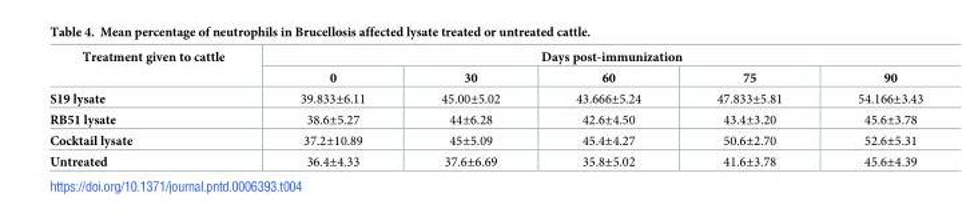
<table><thead><tr><td rowspan="2">Treatment given to cattle</td><td colspan="5">Days post-immunization</td></tr><tr><td>0</td><td>30</td><td>60</td><td>75</td><td>90</td></tr></thead><tbody><tr><td>S19 lysate</td><td>39.833±6.11</td><td>45.00±5.02</td><td>43.666±5.24</td><td>47.833±5.81</td><td>54.166±3.43</td></tr><tr><td>RB51 lysate</td><td>38.6±5.27</td><td>44±6.28</td><td>42.6±4.50</td><td>43.4±3.20</td><td>45.6±3.78</td></tr><tr><td>Cocktail lysate</td><td>37.2±10.89</td><td>45±5.09</td><td>45.4±4.27</td><td>50.6±2.70</td><td>52.6±5.31</td></tr><tr><td>Untreated</td><td>36.4±4.33</td><td>37.6±6.69</td><td>35.8±5.02</td><td>41.6±3.78</td><td>45.6±4.39</td></tr></tbody></table>